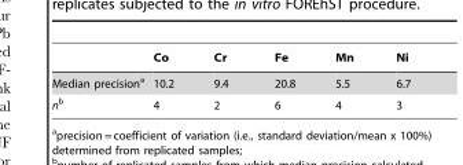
<table><thead><tr><td></td><td>Co</td><td>Cr</td><td>Fe</td><td>Mn</td><td>Ni</td></tr></thead><tbody><tr><td>Median precision<sup>a</sup></td><td>10.2</td><td>9.4</td><td>20.8</td><td>5.5</td><td>6.7</td></tr><tr><td>nb</td><td>4</td><td>2</td><td>6</td><td>4</td><td>3</td></tr></tbody></table>